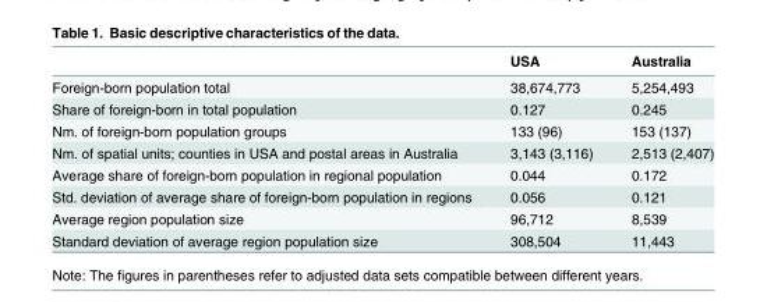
<table><thead><tr><td></td><td>USA</td><td>Australia</td></tr></thead><tbody><tr><td>Foreign-born population total</td><td>38,674,773</td><td>5,254,493</td></tr><tr><td>Share of foreign-born in total population</td><td>0.127</td><td>0.245</td></tr><tr><td>Nm. of foreign-born population groups</td><td>133 (96)</td><td>153 (137)</td></tr><tr><td>Nm. of spatial units; counties in USA and postal areas in Australia</td><td>3,143 (3,116)</td><td>2,513 (2,407)</td></tr><tr><td>Average share of foreign-born population in regional population</td><td>0.044</td><td>0.172</td></tr><tr><td>Std. deviation of average share of foreign-born population in regions</td><td>0.056</td><td>0.121</td></tr><tr><td>Average region population size</td><td>96,712</td><td>8,539</td></tr><tr><td>Standard deviation of average region population size</td><td>308,504</td><td>11,443</td></tr></tbody></table>